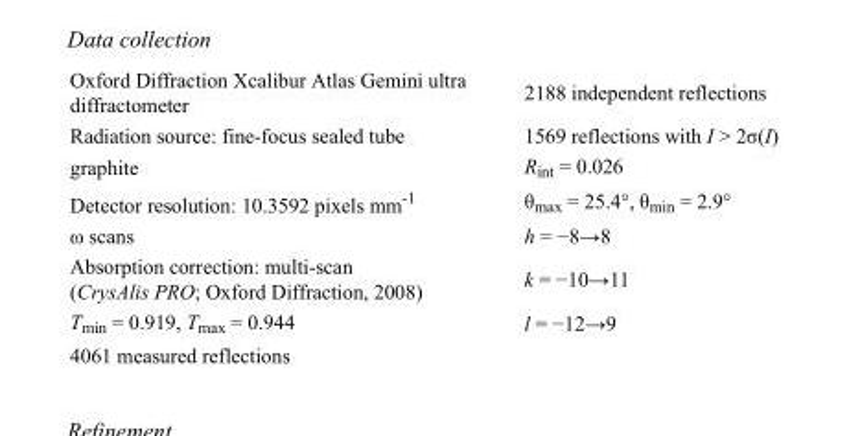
<table><tbody><tr><td>Oxford Diffraction Xcalibur Atlas Gemini ultra diffractometer</td><td>2188 independent reflections</td></tr><tr><td>Radiation source: fine-focus sealed tube</td><td>1569 reflections with I &gt; 2σ(I)</td></tr><tr><td>graphite</td><td>R<sub>int</sub> = 0.026</td></tr><tr><td>Detector resolution: 10.3592 pixels mm<sup>-1</sup></td><td>θ<sub>max</sub> = 25.4°, θ<sub>min</sub> = 2.9°</td></tr><tr><td>ω scans</td><td>h = −8→8</td></tr><tr><td>Absorption correction: multi-scan (CrysAlis PRO; Oxford Diffraction, 2008)</td><td>k = −10→11</td></tr><tr><td>T<sub>min</sub> = 0.919, T<sub>max</sub> = 0.944</td><td>l = −12→9</td></tr><tr><td>4061 measured reflections</td><td></td></tr></tbody></table>